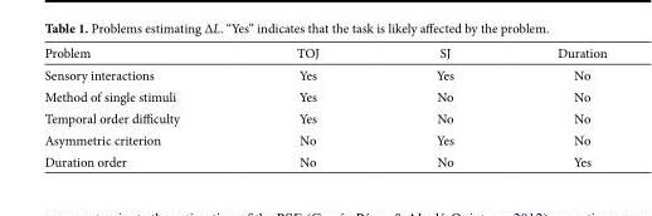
<table><thead><tr><td>Problem</td><td>TOJ</td><td>SJ</td><td>Duration</td></tr></thead><tbody><tr><td>Sensory interactions</td><td>Yes</td><td>Yes</td><td>No</td></tr><tr><td>Method of single stimuli</td><td>Yes</td><td>No</td><td>No</td></tr><tr><td>Temporal order difficulty</td><td>Yes</td><td>No</td><td>No</td></tr><tr><td>Asymmetric criterion</td><td>No</td><td>Yes</td><td>No</td></tr><tr><td>Duration order</td><td>No</td><td>No</td><td>Yes</td></tr></tbody></table>